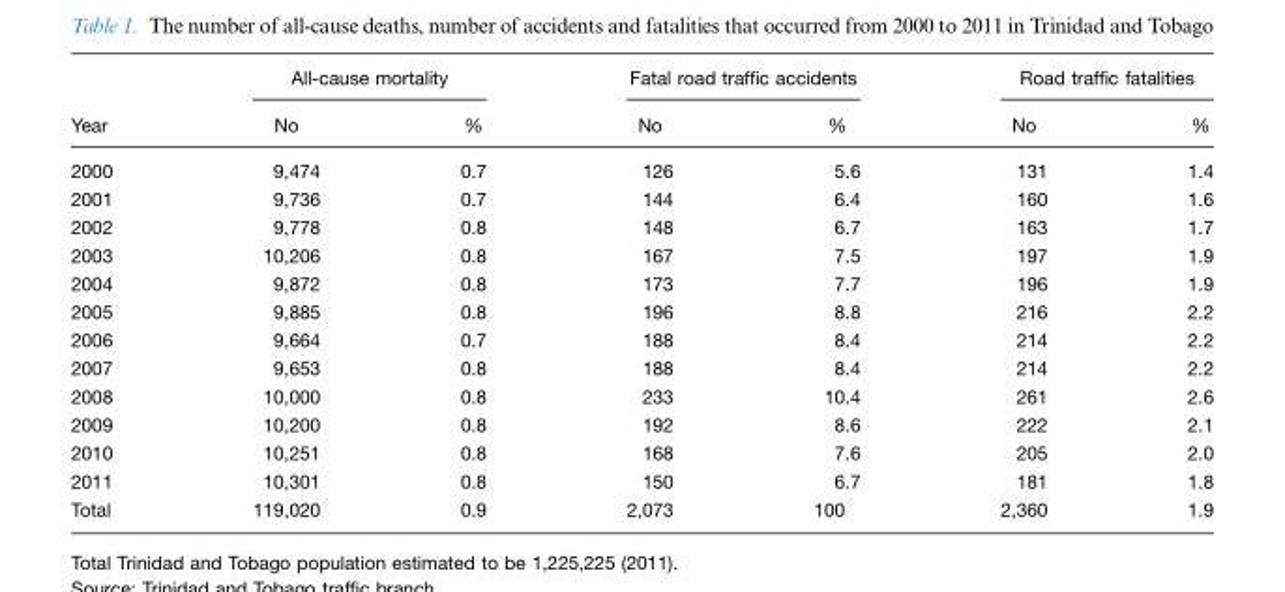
<table><thead><tr><td rowspan="2">Year</td><td colspan="2">All-cause mortality</td><td colspan="2">Fatal road traffic accidents</td><td colspan="2">Road traffic fatalities</td></tr><tr><td>No</td><td>%</td><td>No</td><td>%</td><td>No</td><td>%</td></tr></thead><tbody><tr><td>2000</td><td>9,474</td><td>0.7</td><td>126</td><td>5.6</td><td>131</td><td>1.4</td></tr><tr><td>2001</td><td>9,736</td><td>0.7</td><td>144</td><td>6.4</td><td>160</td><td>1.6</td></tr><tr><td>2002</td><td>9,778</td><td>0.8</td><td>148</td><td>6.7</td><td>163</td><td>1.7</td></tr><tr><td>2003</td><td>10,206</td><td>0.8</td><td>167</td><td>7.5</td><td>197</td><td>1.9</td></tr><tr><td>2004</td><td>9,872</td><td>0.8</td><td>173</td><td>7.7</td><td>196</td><td>1.9</td></tr><tr><td>2005</td><td>9,885</td><td>0.8</td><td>196</td><td>8.8</td><td>216</td><td>2.2</td></tr><tr><td>2006</td><td>9,664</td><td>0.7</td><td>188</td><td>8.4</td><td>214</td><td>2.2</td></tr><tr><td>2007</td><td>9,653</td><td>0.8</td><td>188</td><td>8.4</td><td>214</td><td>2.2</td></tr><tr><td>2008</td><td>10,000</td><td>0.8</td><td>233</td><td>10.4</td><td>261</td><td>2.6</td></tr><tr><td>2009</td><td>10,200</td><td>0.8</td><td>192</td><td>8.6</td><td>222</td><td>2.1</td></tr><tr><td>2010</td><td>10,251</td><td>0.8</td><td>168</td><td>7.6</td><td>205</td><td>2.0</td></tr><tr><td>2011</td><td>10,301</td><td>0.8</td><td>150</td><td>6.7</td><td>181</td><td>1.8</td></tr><tr><td>Total</td><td>119,020</td><td>0.9</td><td>2,073</td><td>100</td><td>2,360</td><td>1.9</td></tr></tbody></table>